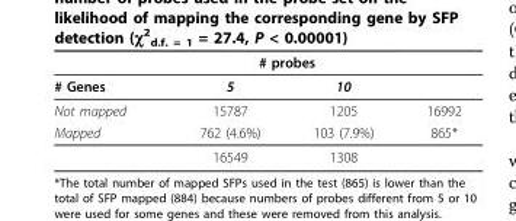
<table><thead><tr><td rowspan="2"># Genes</td><td colspan="2"># probes</td><td rowspan="2"></td></tr><tr><td>5</td><td>10</td></tr></thead><tbody><tr><td>Not mapped</td><td>15787</td><td>1205</td><td>16992</td></tr><tr><td rowspan="2">Mapped</td><td>762 (4.6%)</td><td>103 (7.9%)</td><td>865*</td></tr><tr><td>16549</td><td>1308</td><td></td></tr></tbody></table>